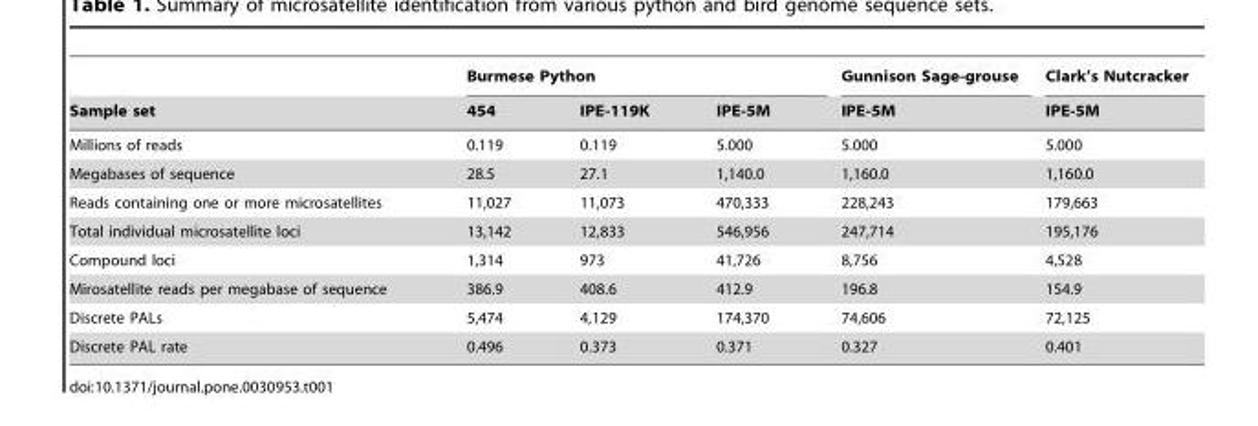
<table><thead><tr><td rowspan="2">Sample set</td><td colspan="3">Burmese Python</td><td rowspan="2">Gunnison Sage-grouse IPE-5M</td><td rowspan="2">Clark’s Nutcracker IPE-5M</td></tr><tr><td>454</td><td>IPE-119K</td><td>IPE-5M</td></tr></thead><tbody><tr><td>Millions of reads</td><td>0.119</td><td>0.119</td><td>5.000</td><td>5.000</td><td>5.000</td></tr><tr><td>Megabases of sequence</td><td>28.5</td><td>27.1</td><td>1,140.0</td><td>1,160.0</td><td>1,160.0</td></tr><tr><td>Reads containing one or more microsatellites</td><td>11,027</td><td>11,073</td><td>470,333</td><td>228,243</td><td>179,663</td></tr><tr><td>Total individual microsatellite loci</td><td>13,142</td><td>12,833</td><td>546,956</td><td>247,714</td><td>195,176</td></tr><tr><td>Compound loci</td><td>1,314</td><td>973</td><td>41,726</td><td>8,756</td><td>4,528</td></tr><tr><td>Mirosatellite reads per megabase of sequence</td><td>386.9</td><td>408.6</td><td>412.9</td><td>196.8</td><td>154.9</td></tr><tr><td>Discrete PALs</td><td>5,474</td><td>4,129</td><td>174,370</td><td>74,606</td><td>72,125</td></tr><tr><td>Discrete PAL rate</td><td>0.496</td><td>0.373</td><td>0.371</td><td>0.327</td><td>0.401</td></tr></tbody></table>